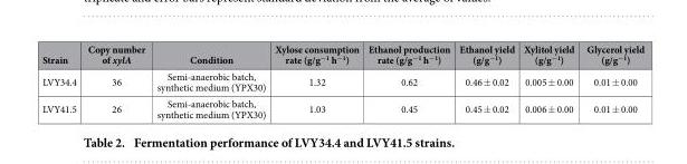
<table><thead><tr><td>Strain</td><td>Copy number of xylA</td><td>Condition</td><td>Xylose consumption rate (g/g<sup>−1</sup> h<sup>−1</sup>)</td><td>Ethanol production rate (g/g<sup>−1</sup> h<sup>−1</sup>)</td><td>Ethanol yield (g/g<sup>−1</sup>)</td><td>Xylitol yield (g/g<sup>−1</sup>)</td><td>Glycerol yield (g/g<sup>−1</sup>)</td></tr></thead><tbody><tr><td>LVY34.4</td><td>36</td><td>Semi-anaerobic batch, synthetic medium (YPX30)</td><td>1.32</td><td>0.62</td><td>0.46 ± 0.02</td><td>0.005 ± 0.00</td><td>0.01 ± 0.00</td></tr><tr><td>LVY41.5</td><td>26</td><td>Semi-anaerobic batch, synthetic medium (YPX30)</td><td>1.03</td><td>0.45</td><td>0.45 ± 0.02</td><td>0.006 ± 0.00</td><td>0.01 ± 0.00</td></tr></tbody></table>